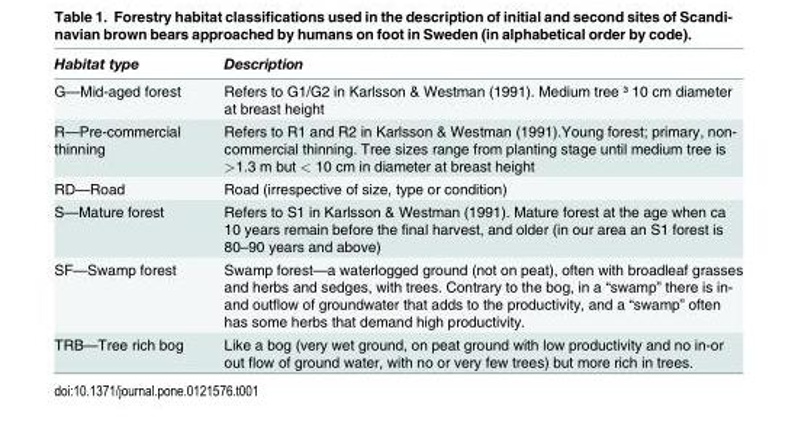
<table><thead><tr><td>Habitat type</td><td>Description</td></tr></thead><tbody><tr><td>G—Mid-aged forest</td><td>Refers to G1/G2 in Karlsson &amp; Westman (1991). Medium tree ³ 10 cm diameter at breast height</td></tr><tr><td>R—Pre-commercial thinning</td><td>Refers to R1 and R2 in Karlsson &amp; Westman (1991).Young forest; primary, non- commercial thinning. Tree sizes range from planting stage until medium tree is &gt;1.3 m but &lt; 10 cm in diameter at breast height</td></tr><tr><td>RD—Road</td><td>Road (irrespective of size, type or condition)</td></tr><tr><td>S—Mature forest</td><td>Refers to S1 in Karlsson &amp; Westman (1991). Mature forest at the age when ca 10 years remain before the final harvest, and older (in our area an S1 forest is 80–90 years and above)</td></tr><tr><td>SF—Swamp forest</td><td>Swamp forest—a waterlogged ground (not on peat), often with broadleaf grasses and herbs and sedges, with trees. Contrary to the bog, in a “swamp” there is in- and outflow of groundwater that adds to the productivity, and a “swamp” often has some herbs that demand high productivity.</td></tr><tr><td>TRB—Tree rich bog</td><td>Like a bog (very wet ground, on peat ground with low productivity and no in-or out flow of ground water, with no or very few trees) but more rich in trees.</td></tr></tbody></table>